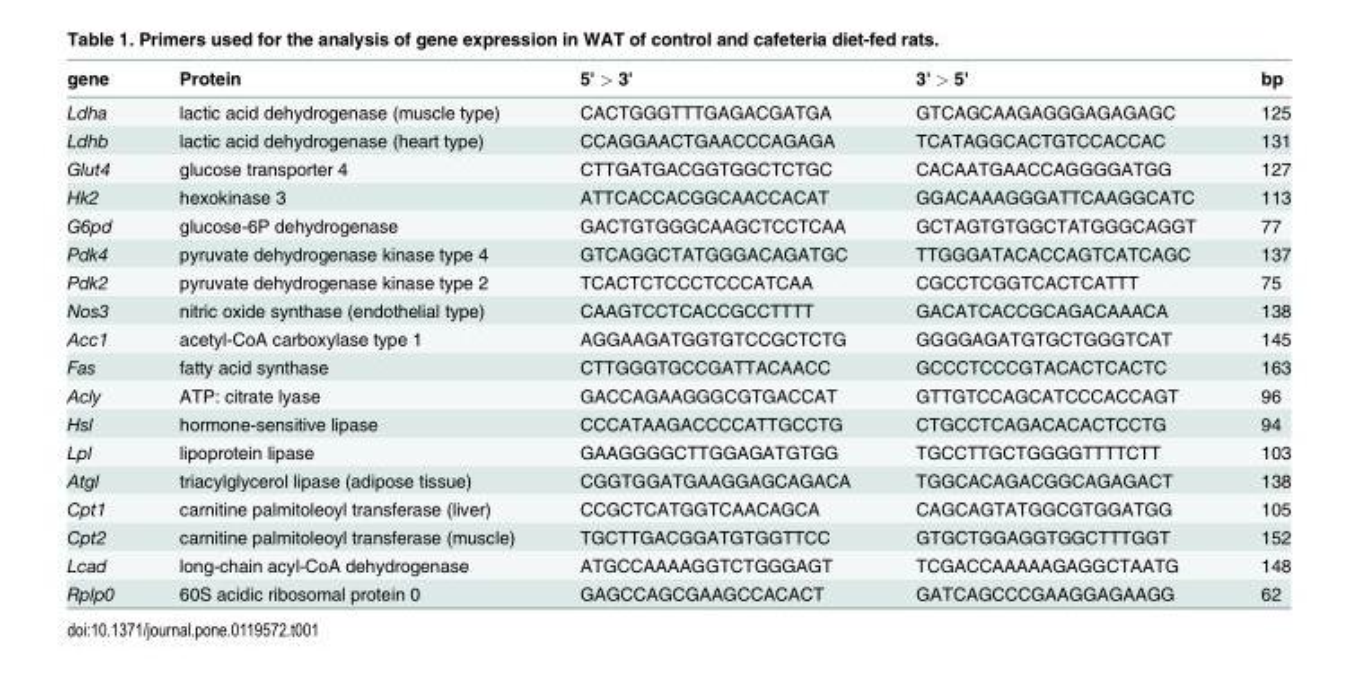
<table><thead><tr><td>gene</td><td>Protein</td><td>5&#x27; &gt; 3&#x27;</td><td>3&#x27; &gt; 5&#x27;</td><td>bp</td></tr></thead><tbody><tr><td>Ldha</td><td>lactic acid dehydrogenase (muscle type)</td><td>CACTGGGTTTGAGACGATGA</td><td>GTCAGCAAGAGGGAGAGAGC</td><td>125</td></tr><tr><td>Ldhb</td><td>lactic acid dehydrogenase (heart type)</td><td>CCAGGAACTGAACCCAGAGA</td><td>TCATAGGCACTGTCCACCAC</td><td>131</td></tr><tr><td>Glut4</td><td>glucose transporter 4</td><td>CTTGATGACGGTGGCTCTGC</td><td>CACAATGAACCAGGGGATGG</td><td>127</td></tr><tr><td>Hk2</td><td>hexokinase 3</td><td>ATTCACCACGGCAACCACAT</td><td>GGACAAAGGGATTCAAGGCATC</td><td>113</td></tr><tr><td>G6pd</td><td>glucose-6P dehydrogenase</td><td>GACTGTGGGCAAGCTCCTCAA</td><td>GCTAGTGTGGCTATGGGCAGGT</td><td>77</td></tr><tr><td>Pdk4</td><td>pyruvate dehydrogenase kinase type 4</td><td>GTCAGGCTATGGGACAGATGC</td><td>TTGGGATACACCAGTCATCAGC</td><td>137</td></tr><tr><td>Pdk2</td><td>pyruvate dehydrogenase kinase type 2</td><td>TCACTCTCCCTCCCATCAA</td><td>CGCCTCGGTCACTCATTT</td><td>75</td></tr><tr><td>Nos3</td><td>nitric oxide synthase (endothelial type)</td><td>CAAGTCCTCACCGCCTTTT</td><td>GACATCACCGCAGACAAACA</td><td>138</td></tr><tr><td>Acc1</td><td>acetyl-CoA carboxylase type 1</td><td>AGGAAGATGGTGTCCGCTCTG</td><td>GGGGAGATGTGCTGGGTCAT</td><td>145</td></tr><tr><td>Fas</td><td>fatty acid synthase</td><td>CTTGGGTGCCGATTACAACC</td><td>GCCCTCCCGTACACTCACTC</td><td>163</td></tr><tr><td>Acly</td><td>ATP: citrate lyase</td><td>GACCAGAAGGGCGTGACCAT</td><td>GTTGTCCAGCATCCCACCAGT</td><td>96</td></tr><tr><td>Hsl</td><td>hormone-sensitive lipase</td><td>CCCATAAGACCCCATTGCCTG</td><td>CTGCCTCAGACACACTCCTG</td><td>94</td></tr><tr><td>Lpl</td><td>lipoprotein lipase</td><td>GAAGGGGCTTGGAGATGTGG</td><td>TGCCTTGCTGGGGTTTTCTT</td><td>103</td></tr><tr><td>Atgl</td><td>triacylglycerol lipase (adipose tissue)</td><td>CGGTGGATGAAGGAGCAGACA</td><td>TGGCACAGACGGCAGAGACT</td><td>138</td></tr><tr><td>Cpt1</td><td>carnitine palmitoleoyl transferase (liver)</td><td>CCGCTCATGGTCAACAGCA</td><td>CAGCAGTATGGCGTGGATGG</td><td>105</td></tr><tr><td>Cpt2</td><td>carnitine palmitoleoyl transferase (muscle)</td><td>TGCTTGACGGATGTGGTTCC</td><td>GTGCTGGAGGTGGCTTTGGT</td><td>152</td></tr><tr><td>Lcad</td><td>long-chain acyl-CoA dehydrogenase</td><td>ATGCCAAAAGGTCTGGGAGT</td><td>TCGACCAAAAAGAGGCTAATG</td><td>148</td></tr><tr><td>Rplp0</td><td>60S acidic ribosomal protein 0</td><td>GAGCCAGCGAAGCCACACT</td><td>GATCAGCCCGAAGGAGAAGG</td><td>62</td></tr></tbody></table>